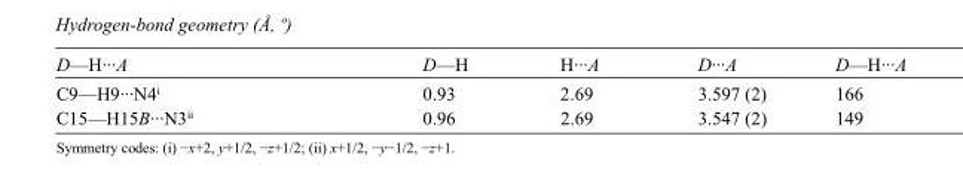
<table><tbody><tr><td>D—H···A</td><td>D—H</td><td>H···A</td><td>D···A</td><td>D—H···A</td></tr><tr><td>C9—H9···N4<sup>i</sup></td><td>0.93</td><td>2.69</td><td>3.597 (2)</td><td>166</td></tr><tr><td>C15—H15B···N3<sup>ii</sup></td><td>0.96</td><td>2.69</td><td>3.547 (2)</td><td>149</td></tr></tbody></table>